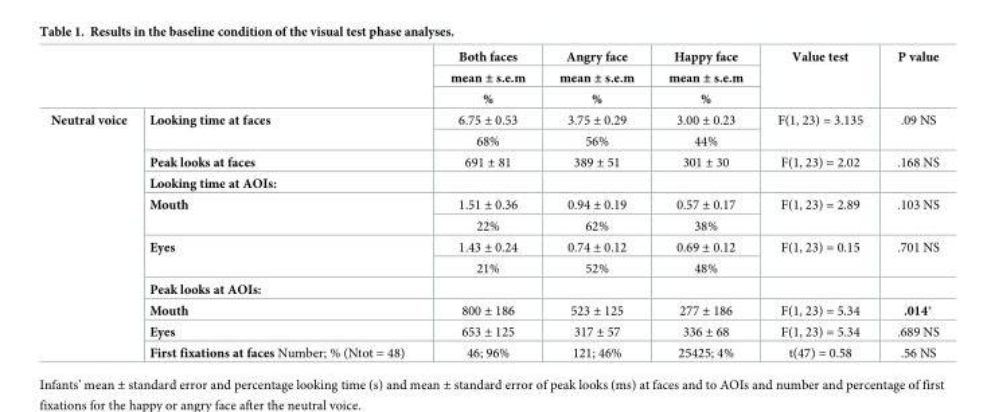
<table><thead><tr><td rowspan="3"></td><td rowspan="3"></td><td rowspan="3">Both faces mean ± s.e.m %</td><td rowspan="3">Angry face mean ± s.e.m %</td><td rowspan="3">Happy face mean ± s.e.m %</td><td rowspan="3">Value test</td><td rowspan="3">P value</td></tr><tr></tr><tr></tr></thead><tbody><tr><td rowspan="12">Neutral voice</td><td rowspan="2">Looking time at faces</td><td>6.75 ± 0.53</td><td>3.75 ± 0.29</td><td>3.00 ± 0.23</td><td rowspan="2">F(1, 23) = 3.135</td><td rowspan="2">.09 NS</td></tr><tr><td>68%</td><td>56%</td><td>44%</td></tr><tr><td>Peak looks at faces</td><td>691 ± 81</td><td>389 ± 51</td><td>301 ± 30</td><td>F(1, 23) = 2.02</td><td>.168 NS</td></tr><tr><td>Looking time at AOIs:</td><td></td><td></td><td></td><td></td><td></td></tr><tr><td rowspan="2">Mouth</td><td>1.51 ± 0.36</td><td>0.94 ± 0.19</td><td>0.57 ± 0.17</td><td rowspan="2">F(1, 23) = 2.89</td><td rowspan="2">.103 NS</td></tr><tr><td>22%</td><td>62%</td><td>38%</td></tr><tr><td rowspan="2">Eyes</td><td>1.43 ± 0.24</td><td>0.74 ± 0.12</td><td>0.69 ± 0.12</td><td rowspan="2">F(1, 23) = 0.15</td><td rowspan="2">.701 NS</td></tr><tr><td>21%</td><td>52%</td><td>48%</td></tr><tr><td>Peak looks at AOIs:</td><td></td><td></td><td></td><td></td><td></td></tr><tr><td>Mouth</td><td>800 ± 186</td><td>523 ± 125</td><td>277 ± 186</td><td>F(1, 23) = 5.34</td><td>.014*</td></tr><tr><td>Eyes</td><td>653 ± 125</td><td>317 ± 57</td><td>336 ± 68</td><td>F(1, 23) = 5.34</td><td>.689 NS</td></tr><tr><td>First fixations at faces Number; % (Ntot = 48)</td><td>46; 96%</td><td>121; 46%</td><td>25425; 4%</td><td>t(47) = 0.58</td><td>.56 NS</td></tr></tbody></table>